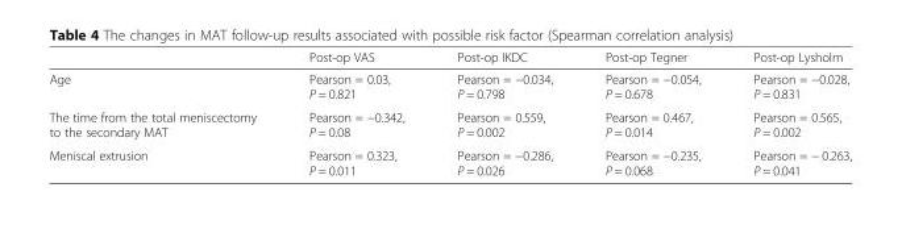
<table><thead><tr><td></td><td>Post-op VAS</td><td>Post-op IKDC</td><td>Post-op Tegner</td><td>Post-op Lysholm</td></tr></thead><tbody><tr><td>Age</td><td>Pearson = 0.03, P = 0.821</td><td>Pearson = −0.034, P = 0.798</td><td>Pearson = −0.054, P = 0.678</td><td>Pearson = −0.028, P = 0.831</td></tr><tr><td>The time from the total meniscectomy to the secondary MAT</td><td>Pearson = −0.342, P = 0.08</td><td>Pearson = 0.559, P = 0.002</td><td>Pearson = 0.467, P = 0.014</td><td>Pearson = 0.565, P = 0.002</td></tr><tr><td>Meniscal extrusion</td><td>Pearson = 0.323, P = 0.011</td><td>Pearson = −0.286, P = 0.026</td><td>Pearson = −0.235, P = 0.068</td><td>Pearson = − 0.263, P = 0.041</td></tr></tbody></table>